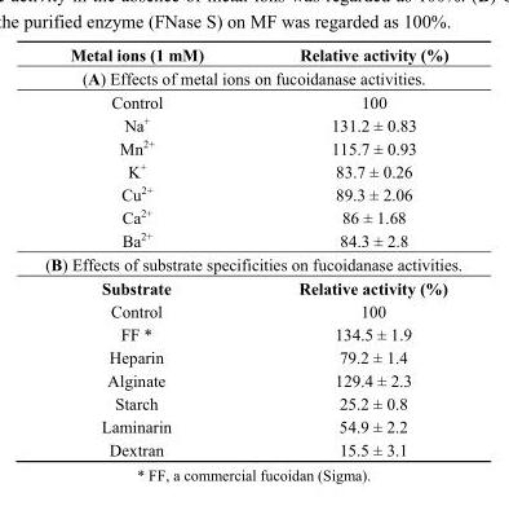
<table><thead><tr><td>Metal ions (1 mM)</td><td>Relative activity (%)</td></tr></thead><tbody><tr><td colspan="2">(A) Effects of metal ions on fucoidanase activities.</td></tr><tr><td>Control</td><td>100</td></tr><tr><td>Na<sup>+</sup></td><td>131.2 ± 0.83</td></tr><tr><td>Mn<sup>2+</sup></td><td>115.7 ± 0.93</td></tr><tr><td>K<sup>+</sup></td><td>83.7 ± 0.26</td></tr><tr><td>Cu<sup>2+</sup></td><td>89.3 ± 2.06</td></tr><tr><td>Ca<sup>2+</sup></td><td>86 ± 1.68</td></tr><tr><td>Ba<sup>2+</sup></td><td>84.3 ± 2.8</td></tr><tr><td colspan="2">(B) Effects of substrate specificities on fucoidanase activities.</td></tr><tr><td>Substrate</td><td>Relative activity (%)</td></tr><tr><td>Control</td><td>100</td></tr><tr><td>FF *</td><td>134.5 ± 1.9</td></tr><tr><td>Heparin</td><td>79.2 ± 1.4</td></tr><tr><td>Alginate</td><td>129.4 ± 2.3</td></tr><tr><td>Starch</td><td>25.2 ± 0.8</td></tr><tr><td>Laminarin</td><td>54.9 ± 2.2</td></tr><tr><td>Dextran</td><td>15.5 ± 3.1</td></tr></tbody></table>